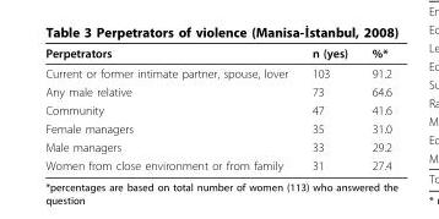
<table><thead><tr><td>Perpetrators</td><td>n (yes)</td><td>%*</td></tr></thead><tbody><tr><td>Current or former intimate partner, spouse, lover</td><td>103</td><td>91.2</td></tr><tr><td>Any male relative</td><td>73</td><td>64.6</td></tr><tr><td>Community</td><td>47</td><td>41.6</td></tr><tr><td>Female managers</td><td>35</td><td>31.0</td></tr><tr><td>Male managers</td><td>33</td><td>29.2</td></tr><tr><td>Women from close environment or from family</td><td>31</td><td>27.4</td></tr></tbody></table>